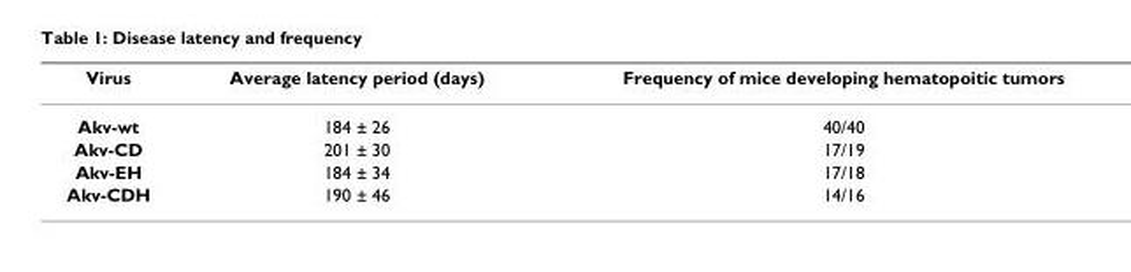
<table><thead><tr><td>Virus</td><td>Average latency period (days)</td><td>Frequency of mice developing hematopoitic tumors</td></tr></thead><tbody><tr><td>Akv-wt</td><td>184 ± 26</td><td>40/40</td></tr><tr><td>Akv-CD</td><td>201 ± 30</td><td>17/19</td></tr><tr><td>Akv-EH</td><td>184 ± 34</td><td>17/18</td></tr><tr><td>Akv-CDH</td><td>190 ± 46</td><td>14/16</td></tr></tbody></table>